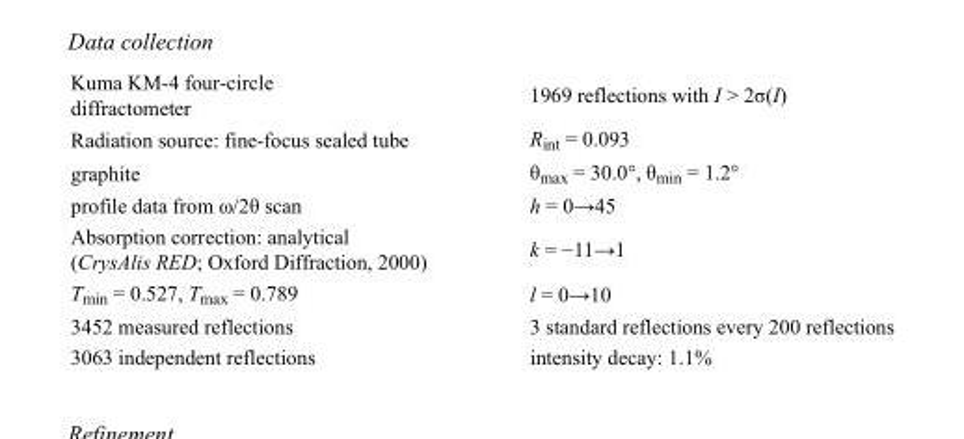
<table><tbody><tr><td>Kuma KM-4 four-circle diffractometer</td><td>1969 reflections with I &gt; 2σ(I)</td></tr><tr><td>Radiation source: fine-focus sealed tube</td><td>R<sub>int</sub> = 0.093</td></tr><tr><td>graphite</td><td>θ<sub>max</sub> = 30.0°, θ<sub>min</sub> = 1.2°</td></tr><tr><td>profile data from ω/2θ scan</td><td>h = 0→45</td></tr><tr><td>Absorption correction: analytical (CrysAlis RED; Oxford Diffraction, 2000)</td><td>k = −11→1</td></tr><tr><td>T<sub>min</sub> = 0.527, T<sub>max</sub> = 0.789</td><td>l = 0→10</td></tr><tr><td>3452 measured reflections</td><td>3 standard reflections every 200 reflections</td></tr><tr><td>3063 independent reflections</td><td>intensity decay: 1.1%</td></tr></tbody></table>